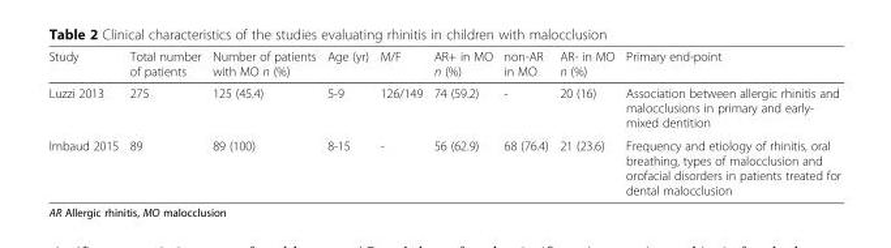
<table><thead><tr><td>Study</td><td>Total number of patients</td><td>Number of patients with MO n (%)</td><td>Age (yr)</td><td>M/F</td><td>AR+ in MO n (%)</td><td>non-AR in MO</td><td>AR- in MO n (%)</td><td>Primary end-point</td></tr></thead><tbody><tr><td>Luzzi 2013</td><td>275</td><td>125 (45.4)</td><td>5-9</td><td>126/149</td><td>74 (59.2)</td><td>-</td><td>20 (16)</td><td>Association between allergic rhinitis and malocclusions in primary and early- mixed dentition</td></tr><tr><td>Imbaud 2015</td><td>89</td><td>89 (100)</td><td>8-15</td><td>-</td><td>56 (62.9)</td><td>68 (76.4)</td><td>21 (23.6)</td><td>Frequency and etiology of rhinitis, oral breathing, types of malocclusion and orofacial disorders in patients treated for dental malocclusion</td></tr></tbody></table>